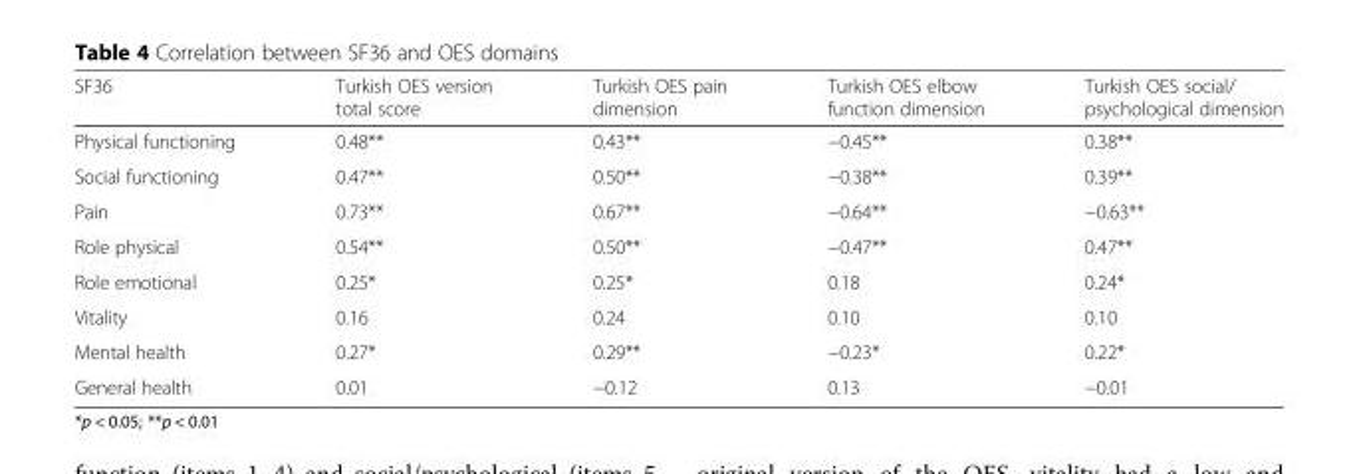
<table><thead><tr><td>SF36</td><td>Turkish OES version total score</td><td>Turkish OES pain dimension</td><td>Turkish OES elbow function dimension</td><td>Turkish OES social/ psychological dimension</td></tr></thead><tbody><tr><td>Physical functioning</td><td>0.48**</td><td>0.43**</td><td>−0.45**</td><td>0.38**</td></tr><tr><td>Social functioning</td><td>0.47**</td><td>0.50**</td><td>−0.38**</td><td>0.39**</td></tr><tr><td>Pain</td><td>0.73**</td><td>0.67**</td><td>−0.64**</td><td>−0.63**</td></tr><tr><td>Role physical</td><td>0.54**</td><td>0.50**</td><td>−0.47**</td><td>0.47**</td></tr><tr><td>Role emotional</td><td>0.25*</td><td>0.25*</td><td>0.18</td><td>0.24*</td></tr><tr><td>Vitality</td><td>0.16</td><td>0.24</td><td>0.10</td><td>0.10</td></tr><tr><td>Mental health</td><td>0.27*</td><td>0.29**</td><td>−0.23*</td><td>0.22*</td></tr><tr><td>General health</td><td>0.01</td><td>−0.12</td><td>0.13</td><td>−0.01</td></tr></tbody></table>